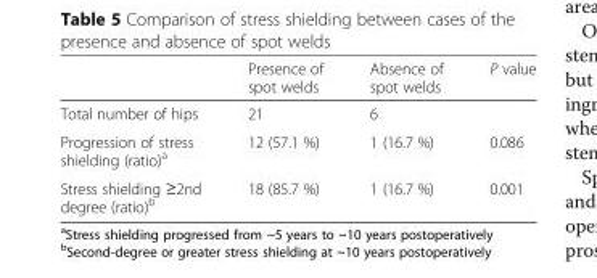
<table><thead><tr><td></td><td>Presence of spot welds</td><td>Absence of spot welds</td><td>P value</td></tr></thead><tbody><tr><td>Total number of hips</td><td>21</td><td>6</td><td></td></tr><tr><td>Progression of stress shielding (ratio)<sup>a</sup></td><td>12 (57.1 %)</td><td>1 (16.7 %)</td><td>0.086</td></tr><tr><td>Stress shielding ≥2nd degree (ratio)<sup>b</sup></td><td>18 (85.7 %)</td><td>1 (16.7 %)</td><td>0.001</td></tr></tbody></table>